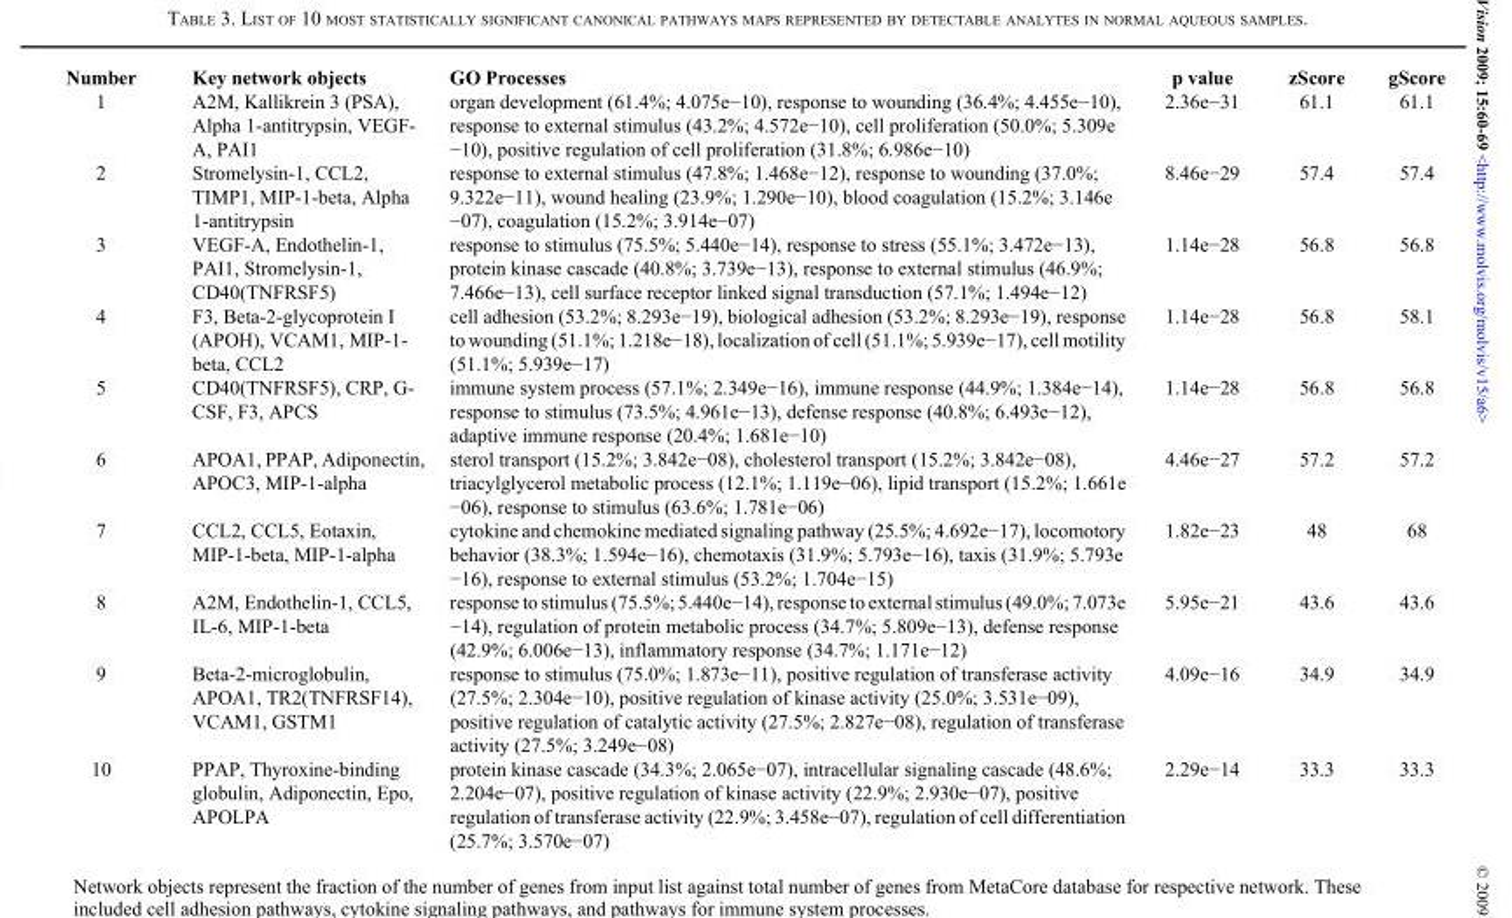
<table><thead><tr><td>Number</td><td>Key network objects</td><td>GO Processes</td><td>p value</td><td>zScore</td><td>gScore</td></tr></thead><tbody><tr><td>1</td><td>A2M, Kallikrein 3 (PSA), Alpha 1-antitrypsin, VEGF- A, PAI1</td><td>organ development (61.4%; 4.075e−10), response to wounding (36.4%; 4.455e−10), response to external stimulus (43.2%; 4.572e−10), cell proliferation (50.0%; 5.309e −10), positive regulation of cell proliferation (31.8%; 6.986e−10)</td><td>2.36e−31</td><td>61.1</td><td>61.1</td></tr><tr><td>2</td><td>Stromelysin-1, CCL2, TIMP1, MIP-1-beta, Alpha 1-antitrypsin</td><td>response to external stimulus (47.8%; 1.468e−12), response to wounding (37.0%; 9.322e−11), wound healing (23.9%; 1.290e−10), blood coagulation (15.2%; 3.146e −07), coagulation (15.2%; 3.914e−07)</td><td>8.46e−29</td><td>57.4</td><td>57.4</td></tr><tr><td>3</td><td>VEGF-A, Endothelin-1, PAI1, Stromelysin-1, CD40(TNFRSF5)</td><td>response to stimulus (75.5%; 5.440e−14), response to stress (55.1%; 3.472e−13), protein kinase cascade (40.8%; 3.739e−13), response to external stimulus (46.9%; 7.466e−13), cell surface receptor linked signal transduction (57.1%; 1.494e−12)</td><td>1.14e−28</td><td>56.8</td><td>56.8</td></tr><tr><td>4</td><td>F3, Beta-2-glycoprotein I (APOH), VCAM1, MIP-1- beta, CCL2</td><td>cell adhesion (53.2%; 8.293e−19), biological adhesion (53.2%; 8.293e−19), response to wounding (51.1%; 1.218e−18), localization of cell (51.1%; 5.939e−17), cell motility (51.1%; 5.939e−17)</td><td>1.14e−28</td><td>56.8</td><td>58.1</td></tr><tr><td>5</td><td>CD40(TNFRSF5), CRP, G- CSF, F3, APCS</td><td>immune system process (57.1%; 2.349e−16), immune response (44.9%; 1.384e−14), response to stimulus (73.5%; 4.961e−13), defense response (40.8%; 6.493e−12), adaptive immune response (20.4%; 1.681e−10)</td><td>1.14e−28</td><td>56.8</td><td>56.8</td></tr><tr><td>6</td><td>APOA1, PPAP, Adiponectin, APOC3, MIP-1-alpha</td><td>sterol transport (15.2%; 3.842e−08), cholesterol transport (15.2%; 3.842e−08), triacylglycerol metabolic process (12.1%; 1.119e−06), lipid transport (15.2%; 1.661e −06), response to stimulus (63.6%; 1.781e−06)</td><td>4.46e−27</td><td>57.2</td><td>57.2</td></tr><tr><td>7</td><td>CCL2, CCL5, Eotaxin, MIP-1-beta, MIP-1-alpha</td><td>cytokine and chemokine mediated signaling pathway (25.5%; 4.692e−17), locomotory behavior (38.3%; 1.594e−16), chemotaxis (31.9%; 5.793e−16), taxis (31.9%; 5.793e −16), response to external stimulus (53.2%; 1.704e−15)</td><td>1.82e−23</td><td>48</td><td>68</td></tr><tr><td>8</td><td>A2M, Endothelin-1, CCL5, IL-6, MIP-1-beta</td><td>response to stimulus (75.5%; 5.440e−14), response to external stimulus (49.0%; 7.073e −14), regulation of protein metabolic process (34.7%; 5.809e−13), defense response (42.9%; 6.006e−13), inflammatory response (34.7%; 1.171e−12)</td><td>5.95e−21</td><td>43.6</td><td>43.6</td></tr><tr><td>9</td><td>Beta-2-microglobulin, APOA1, TR2(TNFRSF14), VCAM1, GSTM1</td><td>response to stimulus (75.0%; 1.873e−11), positive regulation of transferase activity (27.5%; 2.304e−10), positive regulation of kinase activity (25.0%; 3.531e−09), positive regulation of catalytic activity (27.5%; 2.827e−08), regulation of transferase activity (27.5%; 3.249e−08)</td><td>4.09e−16</td><td>34.9</td><td>34.9</td></tr><tr><td>10</td><td>PPAP, Thyroxine-binding globulin, Adiponectin, Epo, APOLPA</td><td>protein kinase cascade (34.3%; 2.065e−07), intracellular signaling cascade (48.6%; 2.204e−07), positive regulation of kinase activity (22.9%; 2.930e−07), positive regulation of transferase activity (22.9%; 3.458e−07), regulation of cell differentiation (25.7%; 3.570e−07)</td><td>2.29e−14</td><td>33.3</td><td>33.3</td></tr></tbody></table>